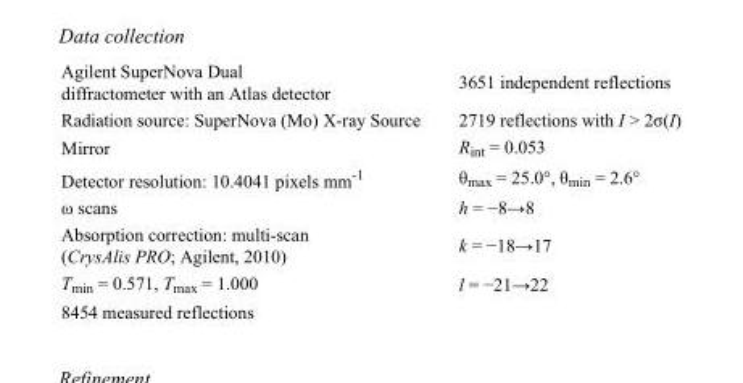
<table><tbody><tr><td>Agilent SuperNova Dual diffractometer with an Atlas detector</td><td>3651 independent reflections</td></tr><tr><td>Radiation source: SuperNova (Mo) X-ray Source</td><td>2719 reflections with I &gt; 2σ(I)</td></tr><tr><td>Mirror</td><td>R<sub>int</sub> = 0.053</td></tr><tr><td>Detector resolution: 10.4041 pixels mm<sup>-1</sup></td><td>θ<sub>max</sub> = 25.0°, θ<sub>min</sub> = 2.6°</td></tr><tr><td>ω scans</td><td>h = −8→8</td></tr><tr><td>Absorption correction: multi-scan (CrysAlis PRO; Agilent, 2010)</td><td>k = −18→17</td></tr><tr><td>T<sub>min</sub> = 0.571, T<sub>max</sub> = 1.000</td><td>l = −21→22</td></tr><tr><td>8454 measured reflections</td><td></td></tr></tbody></table>